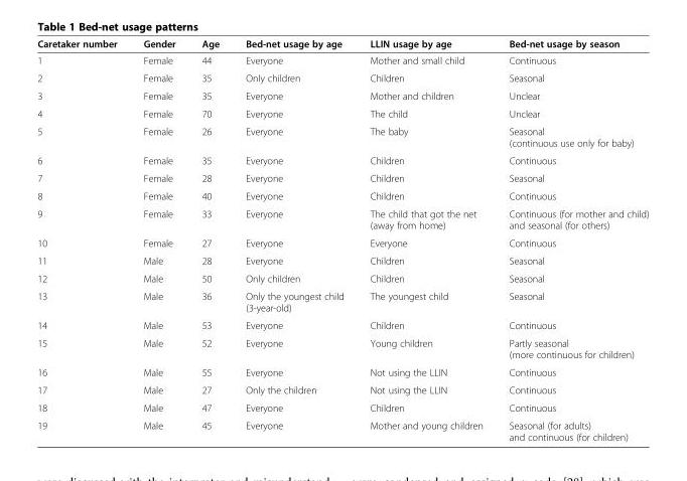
<table><thead><tr><td>Caretaker number</td><td>Gender</td><td>Age</td><td>Bed-net usage by age</td><td>LLIN usage by age</td><td>Bed-net usage by season</td></tr></thead><tbody><tr><td>1</td><td>Female</td><td>44</td><td>Everyone</td><td>Mother and small child</td><td>Continuous</td></tr><tr><td>2</td><td>Female</td><td>35</td><td>Only children</td><td>Children</td><td>Seasonal</td></tr><tr><td>3</td><td>Female</td><td>35</td><td>Everyone</td><td>Mother and children</td><td>Unclear</td></tr><tr><td>4</td><td>Female</td><td>70</td><td>Everyone</td><td>The child</td><td>Unclear</td></tr><tr><td>5</td><td>Female</td><td>26</td><td>Everyone</td><td>The baby</td><td>Seasonal (continuous use only for baby)</td></tr><tr><td>6</td><td>Female</td><td>35</td><td>Everyone</td><td>Children</td><td>Continuous</td></tr><tr><td>7</td><td>Female</td><td>28</td><td>Everyone</td><td>Children</td><td>Seasonal</td></tr><tr><td>8</td><td>Female</td><td>40</td><td>Everyone</td><td>Children</td><td>Continuous</td></tr><tr><td>9</td><td>Female</td><td>33</td><td>Everyone</td><td>The child that got the net (away from home)</td><td>Continuous (for mother and child) and seasonal (for others)</td></tr><tr><td>10</td><td>Female</td><td>27</td><td>Everyone</td><td>Everyone</td><td>Continuous</td></tr><tr><td>11</td><td>Male</td><td>28</td><td>Everyone</td><td>Children</td><td>Seasonal</td></tr><tr><td>12</td><td>Male</td><td>50</td><td>Only children</td><td>Children</td><td>Seasonal</td></tr><tr><td>13</td><td>Male</td><td>36</td><td>Only the youngest child (3-year-old)</td><td>The youngest child</td><td>Seasonal</td></tr><tr><td>14</td><td>Male</td><td>53</td><td>Everyone</td><td>Children</td><td>Continuous</td></tr><tr><td>15</td><td>Male</td><td>52</td><td>Everyone</td><td>Young children</td><td>Partly seasonal (more continuous for children)</td></tr><tr><td>16</td><td>Male</td><td>55</td><td>Everyone</td><td>Not using the LLIN</td><td>Continuous</td></tr><tr><td>17</td><td>Male</td><td>27</td><td>Only the children</td><td>Not using the LLIN</td><td>Continuous</td></tr><tr><td>18</td><td>Male</td><td>47</td><td>Everyone</td><td>Children</td><td>Continuous</td></tr><tr><td>19</td><td>Male</td><td>45</td><td>Everyone</td><td>Mother and young children</td><td>Seasonal (for adults) and continuous (for children)</td></tr></tbody></table>